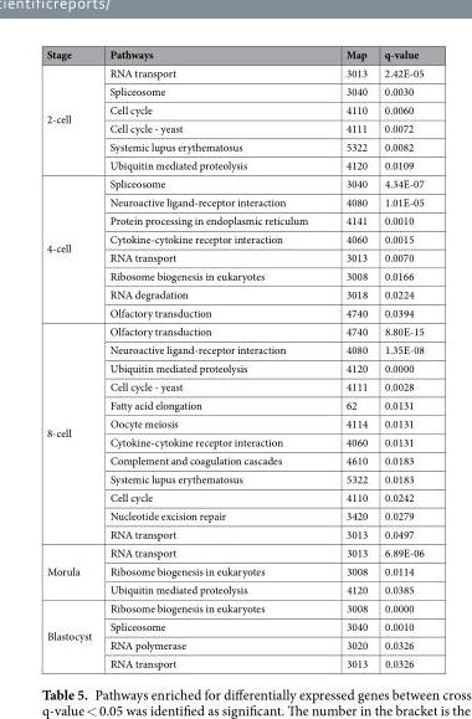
<table><thead><tr><td>Stage</td><td>Pathways</td><td>Map</td><td>q-value</td></tr></thead><tbody><tr><td rowspan="6">2-cell</td><td>RNA transport</td><td>3013</td><td>2.42E-05</td></tr><tr><td>Spliceosome</td><td>3040</td><td>0.0030</td></tr><tr><td>Cell cycle</td><td>4110</td><td>0.0060</td></tr><tr><td>Cell cycle - yeast</td><td>4111</td><td>0.0072</td></tr><tr><td>Systemic lupus erythematosus</td><td>5322</td><td>0.0082</td></tr><tr><td>Ubiquitin mediated proteolysis</td><td>4120</td><td>0.0109</td></tr><tr><td rowspan="8">4-cell</td><td>Spliceosome</td><td>3040</td><td>4.34E-07</td></tr><tr><td>Neuroactive ligand-receptor interaction</td><td>4080</td><td>1.01E-05</td></tr><tr><td>Protein processing in endoplasmic reticulum</td><td>4141</td><td>0.0010</td></tr><tr><td>Cytokine-cytokine receptor interaction</td><td>4060</td><td>0.0015</td></tr><tr><td>RNA transport</td><td>3013</td><td>0.0070</td></tr><tr><td>Ribosome biogenesis in eukaryotes</td><td>3008</td><td>0.0166</td></tr><tr><td>RNA degradation</td><td>3018</td><td>0.0224</td></tr><tr><td>Olfactory transduction</td><td>4740</td><td>0.0394</td></tr><tr><td rowspan="12">8-cell</td><td>Olfactory transduction</td><td>4740</td><td>8.80E-15</td></tr><tr><td>Neuroactive ligand-receptor interaction</td><td>4080</td><td>1.35E-08</td></tr><tr><td>Ubiquitin mediated proteolysis</td><td>4120</td><td>0.0000</td></tr><tr><td>Cell cycle - yeast</td><td>4111</td><td>0.0028</td></tr><tr><td>Fatty acid elongation</td><td>62</td><td>0.0131</td></tr><tr><td>Oocyte meiosis</td><td>4114</td><td>0.0131</td></tr><tr><td>Cytokine-cytokine receptor interaction</td><td>4060</td><td>0.0131</td></tr><tr><td>Complement and coagulation cascades</td><td>4610</td><td>0.0183</td></tr><tr><td>Systemic lupus erythematosus</td><td>5322</td><td>0.0183</td></tr><tr><td>Cell cycle</td><td>4110</td><td>0.0242</td></tr><tr><td>Nucleotide excision repair</td><td>3420</td><td>0.0279</td></tr><tr><td>RNA transport</td><td>3013</td><td>0.0497</td></tr><tr><td rowspan="3">Morula</td><td>RNA transport</td><td>3013</td><td>6.89E-06</td></tr><tr><td>Ribosome biogenesis in eukaryotes</td><td>3008</td><td>0.0114</td></tr><tr><td>Ubiquitin mediated proteolysis</td><td>4120</td><td>0.0385</td></tr><tr><td rowspan="4">Blastocyst</td><td>Ribosome biogenesis in eukaryotes</td><td>3008</td><td>0.0000</td></tr><tr><td>Spliceosome</td><td>3040</td><td>0.0010</td></tr><tr><td>RNA polymerase</td><td>3020</td><td>0.0326</td></tr><tr><td>RNA transport</td><td>3013</td><td>0.0326</td></tr></tbody></table>